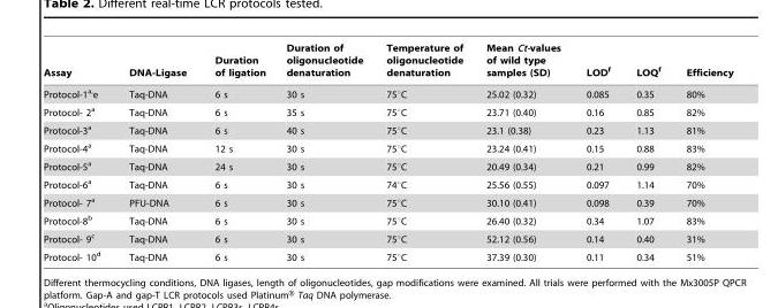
<table><thead><tr><td>Assay</td><td>DNA-Ligase</td><td>Duration of ligation</td><td>Duration of oligonucleotide denaturation</td><td>Temperature of oligonucleotide denaturation</td><td>Mean Ct-values of wild type samples (SD)</td><td>LOD<sup>f</sup></td><td>LOQ<sup>f</sup></td><td>Efficiency</td></tr></thead><tbody><tr><td>Protocol-1<sup>a</sup>,<sup>e</sup></td><td>Taq-DNA</td><td>6 s</td><td>30 s</td><td>75°C</td><td>25.02 (0.32)</td><td>0.085</td><td>0.35</td><td>80%</td></tr><tr><td>Protocol- 2<sup>a</sup></td><td>Taq-DNA</td><td>6 s</td><td>35 s</td><td>75°C</td><td>23.71 (0.40)</td><td>0.16</td><td>0.85</td><td>82%</td></tr><tr><td>Protocol-3<sup>a</sup></td><td>Taq-DNA</td><td>6 s</td><td>40 s</td><td>75°C</td><td>23.1 (0.38)</td><td>0.23</td><td>1.13</td><td>81%</td></tr><tr><td>Protocol-4<sup>a</sup></td><td>Taq-DNA</td><td>12 s</td><td>30 s</td><td>75°C</td><td>23.24 (0.41)</td><td>0.15</td><td>0.88</td><td>83%</td></tr><tr><td>Protocol-5<sup>a</sup></td><td>Taq-DNA</td><td>24 s</td><td>30 s</td><td>75°C</td><td>20.49 (0.34)</td><td>0.21</td><td>0.99</td><td>82%</td></tr><tr><td>Protocol-6<sup>a</sup></td><td>Taq-DNA</td><td>6 s</td><td>30 s</td><td>74°C</td><td>25.56 (0.55)</td><td>0.097</td><td>1.14</td><td>70%</td></tr><tr><td>Protocol- 7<sup>a</sup></td><td>PFU-DNA</td><td>6 s</td><td>30 s</td><td>75°C</td><td>30.10 (0.41)</td><td>0.098</td><td>0.39</td><td>70%</td></tr><tr><td>Protocol-8<sup>b</sup></td><td>Taq-DNA</td><td>6 s</td><td>30 s</td><td>75°C</td><td>26.40 (0.32)</td><td>0.34</td><td>1.07</td><td>83%</td></tr><tr><td>Protocol- 9<sup>c</sup></td><td>Taq-DNA</td><td>6 s</td><td>30 s</td><td>75°C</td><td>52.12 (0.56)</td><td>0.14</td><td>0.40</td><td>31%</td></tr><tr><td>Protocol- 10<sup>d</sup></td><td>Taq-DNA</td><td>6 s</td><td>30 s</td><td>75°C</td><td>37.39 (0.30)</td><td>0.11</td><td>0.34</td><td>51%</td></tr></tbody></table>